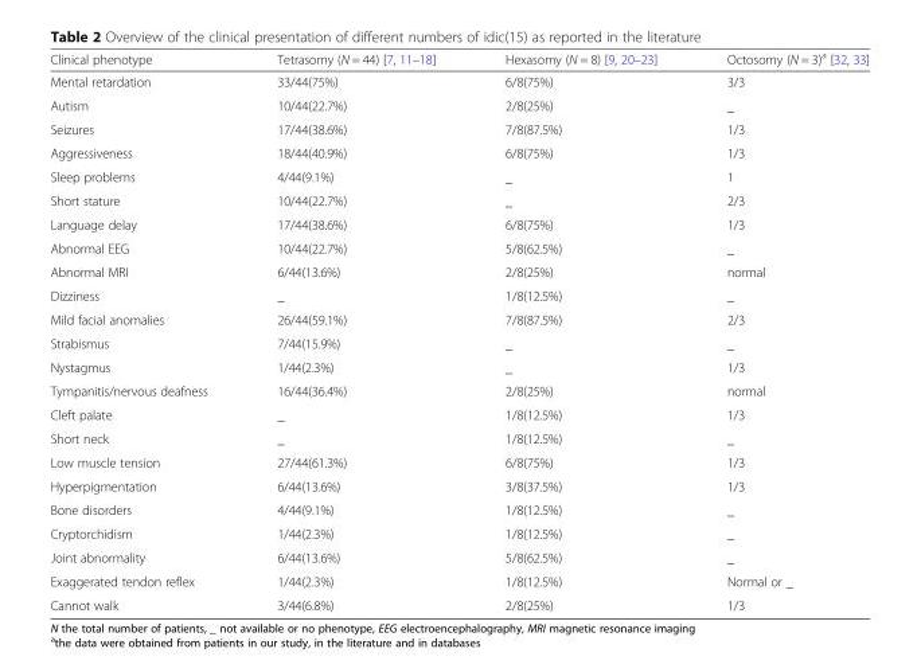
<table><thead><tr><td>Clinical phenotype</td><td>Tetrasomy (N = 44) [7, 11–18]</td><td>Hexasomy (N = 8) [9, 20–23]</td><td>Octosomy (N = 3)<sup>a</sup> [32, 33]</td></tr></thead><tbody><tr><td>Mental retardation</td><td>33/44(75%)</td><td>6/8(75%)</td><td>3/3</td></tr><tr><td>Autism</td><td>10/44(22.7%)</td><td>2/8(25%)</td><td>_</td></tr><tr><td>Seizures</td><td>17/44(38.6%)</td><td>7/8(87.5%)</td><td>1/3</td></tr><tr><td>Aggressiveness</td><td>18/44(40.9%)</td><td>6/8(75%)</td><td>1/3</td></tr><tr><td>Sleep problems</td><td>4/44(9.1%)</td><td>_</td><td>1</td></tr><tr><td>Short stature</td><td>10/44(22.7%)</td><td>_</td><td>2/3</td></tr><tr><td>Language delay</td><td>17/44(38.6%)</td><td>6/8(75%)</td><td>1/3</td></tr><tr><td>Abnormal EEG</td><td>10/44(22.7%)</td><td>5/8(62.5%)</td><td>_</td></tr><tr><td>Abnormal MRI</td><td>6/44(13.6%)</td><td>2/8(25%)</td><td>normal</td></tr><tr><td>Dizziness</td><td>_</td><td>1/8(12.5%)</td><td>_</td></tr><tr><td>Mild facial anomalies</td><td>26/44(59.1%)</td><td>7/8(87.5%)</td><td>2/3</td></tr><tr><td>Strabismus</td><td>7/44(15.9%)</td><td>_</td><td>_</td></tr><tr><td>Nystagmus</td><td>1/44(2.3%)</td><td>_</td><td>1/3</td></tr><tr><td>Tympanitis/nervous deafness</td><td>16/44(36.4%)</td><td>2/8(25%)</td><td>normal</td></tr><tr><td>Cleft palate</td><td>_</td><td>1/8(12.5%)</td><td>1/3</td></tr><tr><td>Short neck</td><td>_</td><td>1/8(12.5%)</td><td>_</td></tr><tr><td>Low muscle tension</td><td>27/44(61.3%)</td><td>6/8(75%)</td><td>1/3</td></tr><tr><td>Hyperpigmentation</td><td>6/44(13.6%)</td><td>3/8(37.5%)</td><td>1/3</td></tr><tr><td>Bone disorders</td><td>4/44(9.1%)</td><td>1/8(12.5%)</td><td>_</td></tr><tr><td>Cryptorchidism</td><td>1/44(2.3%)</td><td>1/8(12.5%)</td><td>_</td></tr><tr><td>Joint abnormality</td><td>6/44(13.6%)</td><td>5/8(62.5%)</td><td>_</td></tr><tr><td>Exaggerated tendon reflex</td><td>1/44(2.3%)</td><td>1/8(12.5%)</td><td>Normal or _</td></tr><tr><td>Cannot walk</td><td>3/44(6.8%)</td><td>2/8(25%)</td><td>1/3</td></tr></tbody></table>